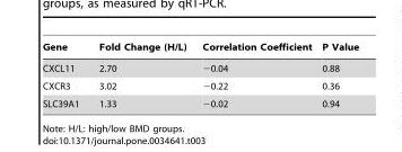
<table><thead><tr><td>Gene</td><td>Fold Change (H/L)</td><td>Correlation Coefficient</td><td>P Value</td></tr></thead><tbody><tr><td>CXCL11</td><td>2.70</td><td>−0.04</td><td>0.88</td></tr><tr><td>CXCR3</td><td>3.02</td><td>−0.22</td><td>0.36</td></tr><tr><td>SLC39A1</td><td>1.33</td><td>−0.02</td><td>0.94</td></tr></tbody></table>